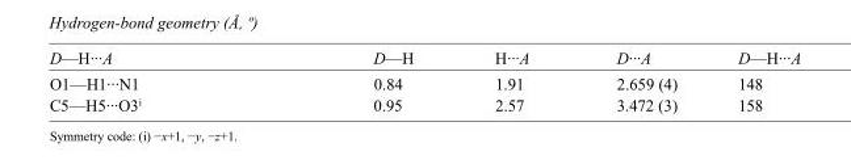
<table><tbody><tr><td>D—H···A</td><td>D—H</td><td>H···A</td><td>D···A</td><td>D—H···A</td></tr><tr><td>O1—H1···N1</td><td>0.84</td><td>1.91</td><td>2.659 (4)</td><td>148</td></tr><tr><td>C5—H5···O3<sup>i</sup></td><td>0.95</td><td>2.57</td><td>3.472 (3)</td><td>158</td></tr></tbody></table>